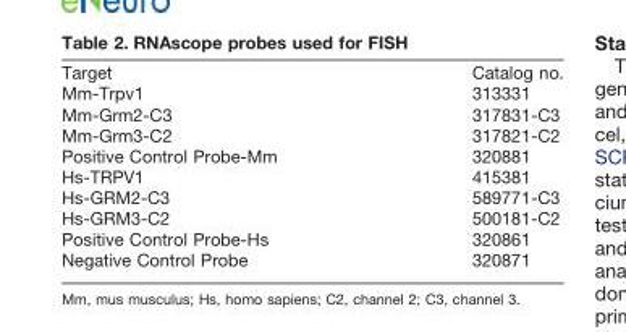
<table><thead><tr><td>Target</td><td>Catalog no.</td></tr></thead><tbody><tr><td>Mm-Trpv1</td><td>313331</td></tr><tr><td>Mm-Grm2-C3</td><td>317831-C3</td></tr><tr><td>Mm-Grm3-C2</td><td>317821-C2</td></tr><tr><td>Positive Control Probe-Mm</td><td>320881</td></tr><tr><td>Hs-TRPV1</td><td>415381</td></tr><tr><td>Hs-GRM2-C3</td><td>589771-C3</td></tr><tr><td>Hs-GRM3-C2</td><td>500181-C2</td></tr><tr><td>Positive Control Probe-Hs</td><td>320861</td></tr><tr><td>Negative Control Probe</td><td>320871</td></tr></tbody></table>